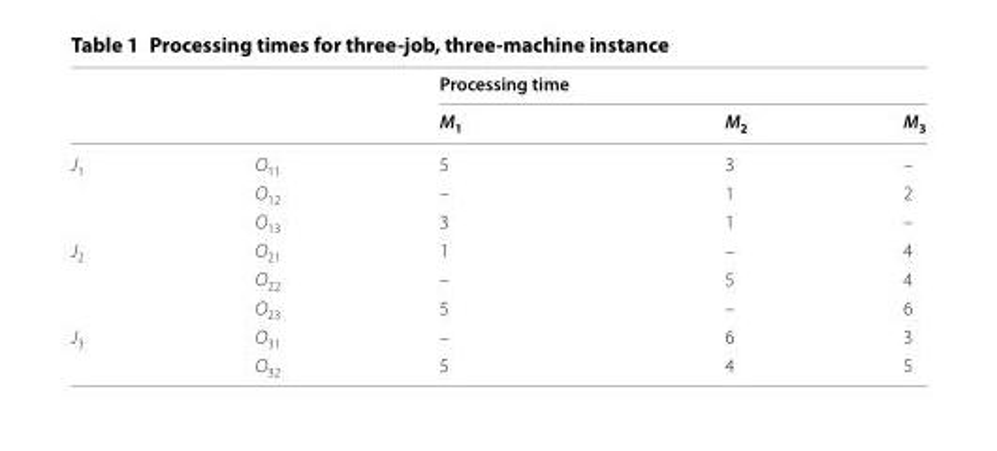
<table><thead><tr><td rowspan="2"></td><td rowspan="2"></td><td colspan="3">Processing time</td></tr><tr><td>M<sub>1</sub></td><td>M<sub>2</sub></td><td>M<sub>3</sub></td></tr></thead><tbody><tr><td rowspan="3">J<sub>1</sub></td><td>O<sub>11</sub></td><td>5</td><td>3</td><td>–</td></tr><tr><td>O<sub>12</sub></td><td>–</td><td>1</td><td>2</td></tr><tr><td>O<sub>13</sub></td><td>3</td><td>1</td><td>–</td></tr><tr><td rowspan="3">J<sub>2</sub></td><td>O<sub>21</sub></td><td>1</td><td>–</td><td>4</td></tr><tr><td>O<sub>22</sub></td><td>–</td><td>5</td><td>4</td></tr><tr><td>O<sub>23</sub></td><td>5</td><td>–</td><td>6</td></tr><tr><td rowspan="2">J<sub>3</sub></td><td>O<sub>31</sub></td><td>–</td><td>6</td><td>3</td></tr><tr><td>O<sub>32</sub></td><td>5</td><td>4</td><td>5</td></tr></tbody></table>